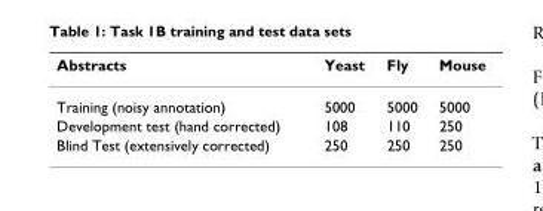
<table><thead><tr><td>Abstracts</td><td>Yeast</td><td>Fly</td><td>Mouse</td></tr></thead><tbody><tr><td>Training (noisy annotation)</td><td>5000</td><td>5000</td><td>5000</td></tr><tr><td>Development test (hand corrected)</td><td>108</td><td>110</td><td>250</td></tr><tr><td>Blind Test (extensively corrected)</td><td>250</td><td>250</td><td>250</td></tr></tbody></table>